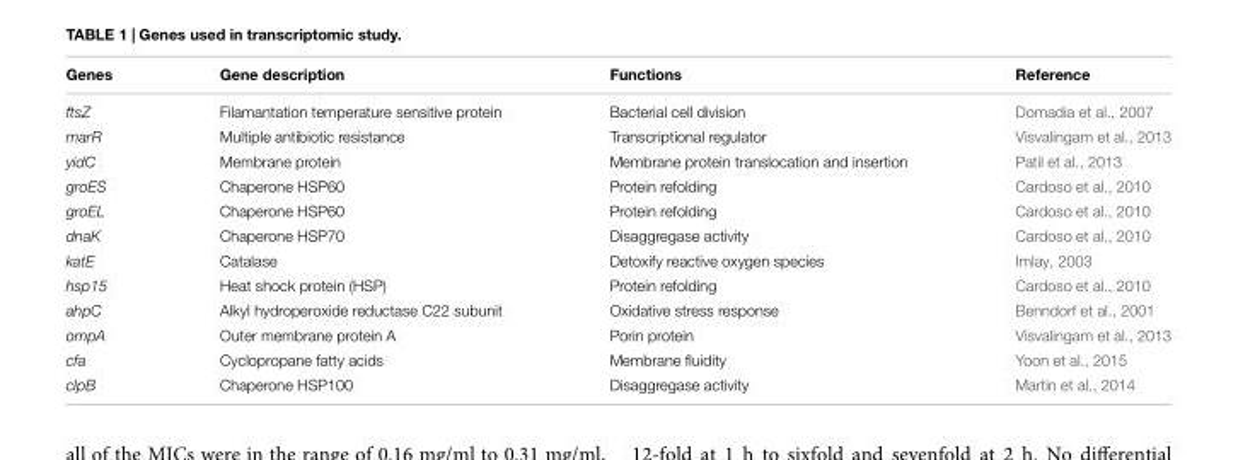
<table><thead><tr><td>Genes</td><td>Gene description</td><td>Functions</td><td>Reference</td></tr></thead><tbody><tr><td>ftsZ</td><td>Filamantation temperature sensitive protein</td><td>Bacterial cell division</td><td>Domadia et al., 2007</td></tr><tr><td>marR</td><td>Multiple antibiotic resistance</td><td>Transcriptional regulator</td><td>Visvalingam et al., 2013</td></tr><tr><td>yidC</td><td>Membrane protein</td><td>Membrane protein translocation and insertion</td><td>Patil et al., 2013</td></tr><tr><td>groES</td><td>Chaperone HSP60</td><td>Protein refolding</td><td>Cardoso et al., 2010</td></tr><tr><td>groEL</td><td>Chaperone HSP60</td><td>Protein refolding</td><td>Cardoso et al., 2010</td></tr><tr><td>dnaK</td><td>Chaperone HSP70</td><td>Disaggregase activity</td><td>Cardoso et al., 2010</td></tr><tr><td>katE</td><td>Catalase</td><td>Detoxify reactive oxygen species</td><td>Imlay, 2003</td></tr><tr><td>hsp15</td><td>Heat shock protein (HSP)</td><td>Protein refolding</td><td>Cardoso et al., 2010</td></tr><tr><td>ahpC</td><td>Alkyl hydroperoxide reductase C22 subunit</td><td>Oxidative stress response</td><td>Benndorf et al., 2001</td></tr><tr><td>ompA</td><td>Outer membrane protein A</td><td>Porin protein</td><td>Visvalingam et al., 2013</td></tr><tr><td>cfa</td><td>Cyclopropane fatty acids</td><td>Membrane fluidity</td><td>Yoon et al., 2015</td></tr><tr><td>clpB</td><td>Chaperone HSP100</td><td>Disaggregase activity</td><td>Martin et al., 2014</td></tr></tbody></table>